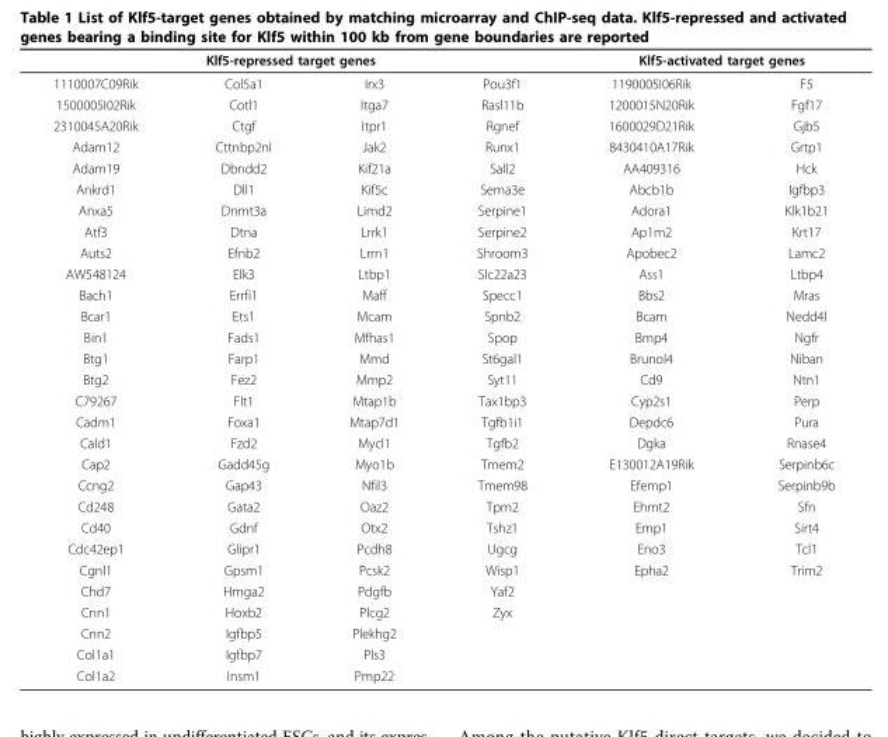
<table><thead><tr><td colspan="4">Klf5-repressed target genes</td><td colspan="2">Klf5-activated target genes</td></tr><tr><td>1110007C09Rik</td><td>Col5a1</td><td>Irx3</td><td>Pou3f1</td><td>1190005I06Rik</td><td>F5</td></tr></thead><tbody><tr><td>1500005I02Rik</td><td>Cotl1</td><td>Itga7</td><td>Rasl11b</td><td>1200015N20Rik</td><td>Fgf17</td></tr><tr><td>2310045A20Rik</td><td>Ctgf</td><td>Itpr1</td><td>Rgnef</td><td>1600029D21Rik</td><td>Gjb5</td></tr><tr><td>Adam12</td><td>Cttnbp2nl</td><td>Jak2</td><td>Runx1</td><td>8430410A17Rik</td><td>Grtp1</td></tr><tr><td>Adam19</td><td>Dbndd2</td><td>Kif21a</td><td>Sall2</td><td>AA409316</td><td>Hck</td></tr><tr><td>Ankrd1</td><td>Dll1</td><td>Kif5c</td><td>Sema3e</td><td>Abcb1b</td><td>Igfbp3</td></tr><tr><td>Anxa5</td><td>Dnmt3a</td><td>Limd2</td><td>Serpine1</td><td>Adora1</td><td>Klk1b21</td></tr><tr><td>Atf3</td><td>Dtna</td><td>Lrrk1</td><td>Serpine2</td><td>Ap1m2</td><td>Krt17</td></tr><tr><td>Auts2</td><td>Efnb2</td><td>Lrrn1</td><td>Shroom3</td><td>Apobec2</td><td>Lamc2</td></tr><tr><td>AW548124</td><td>Elk3</td><td>Ltbp1</td><td>Slc22a23</td><td>Ass1</td><td>Ltbp4</td></tr><tr><td>Bach1</td><td>Errfi1</td><td>Maff</td><td>Specc1</td><td>Bbs2</td><td>Mras</td></tr><tr><td>Bcar1</td><td>Ets1</td><td>Mcam</td><td>Spnb2</td><td>Bcam</td><td>Nedd4l</td></tr><tr><td>Bin1</td><td>Fads1</td><td>Mfhas1</td><td>Spop</td><td>Bmp4</td><td>Ngfr</td></tr><tr><td>Btg1</td><td>Farp1</td><td>Mmd</td><td>St6gal1</td><td>Brunol4</td><td>Niban</td></tr><tr><td>Btg2</td><td>Fez2</td><td>Mmp2</td><td>Syt11</td><td>Cd9</td><td>Ntn1</td></tr><tr><td>C79267</td><td>Flt1</td><td>Mtap1b</td><td>Tax1bp3</td><td>Cyp2s1</td><td>Perp</td></tr><tr><td>Cadm1</td><td>Foxa1</td><td>Mtap7d1</td><td>Tgfb1i1</td><td>Depdc6</td><td>Pura</td></tr><tr><td>Cald1</td><td>Fzd2</td><td>Mycl1</td><td>Tgfb2</td><td>Dgka</td><td>Rnase4</td></tr><tr><td>Cap2</td><td>Gadd45g</td><td>Myo1b</td><td>Tmem2</td><td>E130012A19Rik</td><td>Serpinb6c</td></tr><tr><td>Ccng2</td><td>Gap43</td><td>Nfil3</td><td>Tmem98</td><td>Efemp1</td><td>Serpinb9b</td></tr><tr><td>Cd248</td><td>Gata2</td><td>Oaz2</td><td>Tpm2</td><td>Ehmt2</td><td>Sfn</td></tr><tr><td>Cd40</td><td>Gdnf</td><td>Otx2</td><td>Tshz1</td><td>Emp1</td><td>Sirt4</td></tr><tr><td>Cdc42ep1</td><td>Glipr1</td><td>Pcdh8</td><td>Ugcg</td><td>Eno3</td><td>Tcl1</td></tr><tr><td>Cgnl1</td><td>Gpsm1</td><td>Pcsk2</td><td>Wisp1</td><td>Epha2</td><td>Trim2</td></tr><tr><td>Chd7</td><td>Hmga2</td><td>Pdgfb</td><td>Yaf2</td><td></td><td></td></tr><tr><td>Cnn1</td><td>Hoxb2</td><td>Plcg2</td><td>Zyx</td><td></td><td></td></tr><tr><td>Cnn2</td><td>Igfbp5</td><td>Plekhg2</td><td></td><td></td><td></td></tr><tr><td>Col1a1</td><td>Igfbp7</td><td>Pls3</td><td></td><td></td><td></td></tr><tr><td>Col1a2</td><td>Insm1</td><td>Pmp22</td><td></td><td></td><td></td></tr></tbody></table>